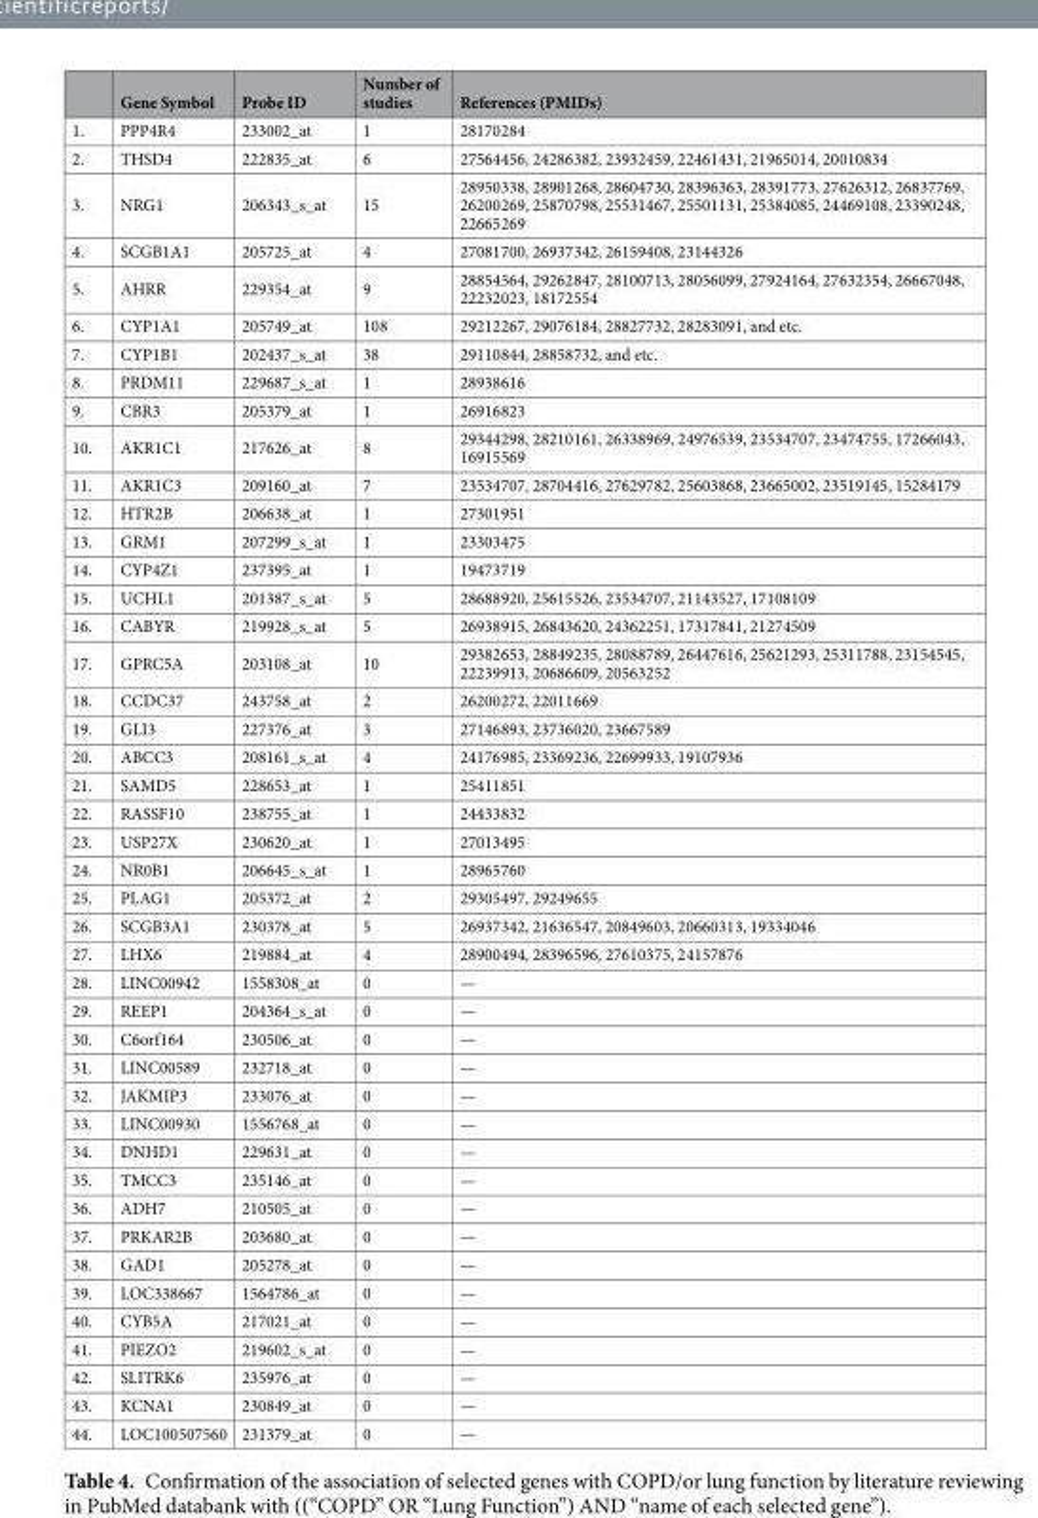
<table><thead><tr><td></td><td>Gene Symbol</td><td>Probe ID</td><td>Number of studies</td><td>References (PMIDs)</td></tr></thead><tbody><tr><td>1.</td><td>PPP4R4</td><td>233002_at</td><td>1</td><td>28170284</td></tr><tr><td>2.</td><td>THSD4</td><td>222835_at</td><td>6</td><td>27564456, 24286382, 23932459, 22461431, 21965014, 20010834</td></tr><tr><td>3.</td><td>NRG1</td><td>206343_s_at</td><td>15</td><td>28950338, 28901268, 28604730, 28396363, 28391773, 27626312, 26837769, 26200269, 25870798, 25531467, 25501131, 25384085, 24469108, 23390248, 22665269</td></tr><tr><td>4.</td><td>SCGB1A1</td><td>205725_at</td><td>4</td><td>27081700, 26937342, 26159408, 23144326</td></tr><tr><td>5.</td><td>AHRR</td><td>229354_at</td><td>9</td><td>28854564, 29262847, 28100713, 28056099, 27924164, 27632354, 26667048, 22232023, 18172554</td></tr><tr><td>6.</td><td>CYP1A1</td><td>205749_at</td><td>108</td><td>29212267, 29076184, 28827732, 28283091, and etc.</td></tr><tr><td>7.</td><td>CYP1B1</td><td>202437_s_at</td><td>38</td><td>29110844, 28858732, and etc.</td></tr><tr><td>8.</td><td>PRDM11</td><td>229687_s_at</td><td>1</td><td>28938616</td></tr><tr><td>9.</td><td>CBR3</td><td>205379_at</td><td>1</td><td>26916823</td></tr><tr><td>10.</td><td>AKR1C1</td><td>217626_at</td><td>8</td><td>29344298, 28210161, 26338969, 24976539, 23534707, 23474755, 17266043, 16915569</td></tr><tr><td>11.</td><td>AKR1C3</td><td>209160_at</td><td>7</td><td>23534707, 28704416, 27629782, 25603868, 23665002, 23519145, 15284179</td></tr><tr><td>12.</td><td>HTR2B</td><td>206638_at</td><td>1</td><td>27301951</td></tr><tr><td>13.</td><td>GRM1</td><td>207299_s_at</td><td>1</td><td>23303475</td></tr><tr><td>14.</td><td>CYP4Z1</td><td>237395_at</td><td>1</td><td>19473719</td></tr><tr><td>15.</td><td>UCHL1</td><td>201387_s_at</td><td>5</td><td>28688920, 25615526, 23534707, 21143527, 17108109</td></tr><tr><td>16.</td><td>CABYR</td><td>219928_s_at</td><td>5</td><td>26938915, 26843620, 24362251, 17317841, 21274509</td></tr><tr><td>17.</td><td>GPRC5A</td><td>203108_at</td><td>10</td><td>29382653, 28849235, 28088789, 26447616, 25621293, 25311788, 23154545, 22239913, 20686609, 20563252</td></tr><tr><td>18.</td><td>CCDC37</td><td>243758_at</td><td>2</td><td>26200272, 22011669</td></tr><tr><td>19.</td><td>GLI3</td><td>227376_at</td><td>3</td><td>27146893, 23736020, 23667589</td></tr><tr><td>20.</td><td>ABCC3</td><td>208161_s_at</td><td>4</td><td>24176985, 23369236, 22699933, 19107936</td></tr><tr><td>21.</td><td>SAMD5</td><td>228653_at</td><td>1</td><td>25411851</td></tr><tr><td>22.</td><td>RASSF10</td><td>238755_at</td><td>1</td><td>24433832</td></tr><tr><td>23.</td><td>USP27X</td><td>230620_at</td><td>1</td><td>27013495</td></tr><tr><td>24.</td><td>NR0B1</td><td>206645_s_at</td><td>1</td><td>28965760</td></tr><tr><td>25.</td><td>PLAG1</td><td>205372_at</td><td>2</td><td>29305497, 29249655</td></tr><tr><td>26.</td><td>SCGB3A1</td><td>230378_at</td><td>5</td><td>26937342, 21636547, 20849603, 20660313, 19334046</td></tr><tr><td>27.</td><td>LHX6</td><td>219884_at</td><td>4</td><td>28900494, 28396596, 27610375, 24157876</td></tr><tr><td>28.</td><td>LINC00942</td><td>1558308_at</td><td>0</td><td>—</td></tr><tr><td>29.</td><td>REEP1</td><td>204364_s_at</td><td>0</td><td>—</td></tr><tr><td>30.</td><td>C6orf164</td><td>230506_at</td><td>0</td><td>—</td></tr><tr><td>31.</td><td>LINC00589</td><td>232718_at</td><td>0</td><td>—</td></tr><tr><td>32.</td><td>JAKMIP3</td><td>233076_at</td><td>0</td><td>—</td></tr><tr><td>33.</td><td>LINC00930</td><td>1556768_at</td><td>0</td><td>—</td></tr><tr><td>34.</td><td>DNHD1</td><td>229631_at</td><td>0</td><td>—</td></tr><tr><td>35.</td><td>TMCC3</td><td>235146_at</td><td>0</td><td>—</td></tr><tr><td>36.</td><td>ADH7</td><td>210505_at</td><td>0</td><td>—</td></tr><tr><td>37.</td><td>PRKAR2B</td><td>203680_at</td><td>0</td><td>—</td></tr><tr><td>38.</td><td>GAD1</td><td>205278_at</td><td>0</td><td>—</td></tr><tr><td>39.</td><td>LOC338667</td><td>1564786_at</td><td>0</td><td>—</td></tr><tr><td>40.</td><td>CYB5A</td><td>217021_at</td><td>0</td><td>—</td></tr><tr><td>41.</td><td>PIEZO2</td><td>219602_s_at</td><td>0</td><td>—</td></tr><tr><td>42.</td><td>SLITRK6</td><td>235976_at</td><td>0</td><td>—</td></tr><tr><td>43.</td><td>KCNA1</td><td>230849_at</td><td>0</td><td>—</td></tr><tr><td>44.</td><td>LOC100507560</td><td>231379_at</td><td>0</td><td>—</td></tr></tbody></table>